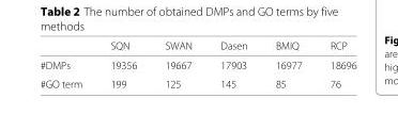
<table><thead><tr><td></td><td>SQN</td><td>SWAN</td><td>Dasen</td><td>BMIQ</td><td>RCP</td></tr></thead><tbody><tr><td>#DMPs</td><td>19356</td><td>19667</td><td>17903</td><td>16977</td><td>18696</td></tr><tr><td>#GO term</td><td>199</td><td>125</td><td>145</td><td>85</td><td>76</td></tr></tbody></table>